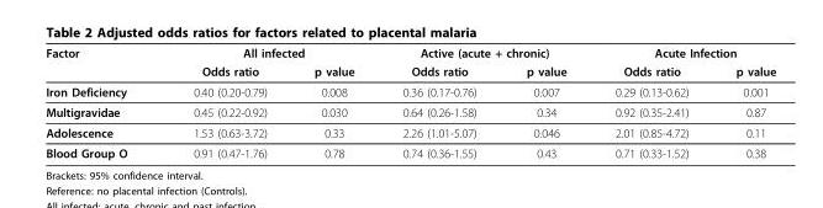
<table><thead><tr><td rowspan="2">Factor</td><td colspan="2">All infected</td><td colspan="2">Active (acute + chronic)</td><td colspan="2">Acute Infection</td></tr><tr><td>Odds ratio</td><td>p value</td><td>Odds ratio</td><td>p value</td><td>Odds ratio</td><td>p value</td></tr></thead><tbody><tr><td>Iron Deficiency</td><td>0.40 (0.20-0.79)</td><td>0.008</td><td>0.36 (0.17-0.76)</td><td>0.007</td><td>0.29 (0.13-0.62)</td><td>0.001</td></tr><tr><td>Multigravidae</td><td>0.45 (0.22-0.92)</td><td>0.030</td><td>0.64 (0.26-1.58)</td><td>0.34</td><td>0.92 (0.35-2.41)</td><td>0.87</td></tr><tr><td>Adolescence</td><td>1.53 (0.63-3.72)</td><td>0.33</td><td>2.26 (1.01-5.07)</td><td>0.046</td><td>2.01 (0.85-4.72)</td><td>0.11</td></tr><tr><td>Blood Group O</td><td>0.91 (0.47-1.76)</td><td>0.78</td><td>0.74 (0.36-1.55)</td><td>0.43</td><td>0.71 (0.33-1.52)</td><td>0.38</td></tr></tbody></table>